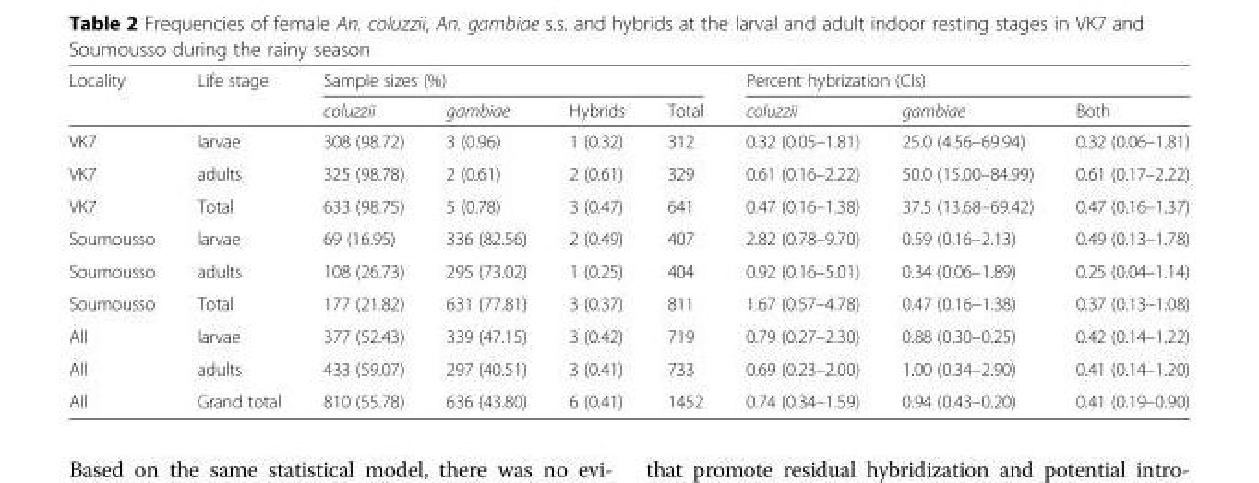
<table><thead><tr><td rowspan="2">Locality</td><td rowspan="2">Life stage</td><td colspan="4">Sample sizes (%)</td><td colspan="3">Percent hybrization (CIs)</td></tr><tr><td>coluzzii</td><td>gambiae</td><td>Hybrids</td><td>Total</td><td>coluzzii</td><td>gambiae</td><td>Both</td></tr></thead><tbody><tr><td>VK7</td><td>larvae</td><td>308 (98.72)</td><td>3 (0.96)</td><td>1 (0.32)</td><td>312</td><td>0.32 (0.05–1.81)</td><td>25.0 (4.56–69.94)</td><td>0.32 (0.06–1.81)</td></tr><tr><td>VK7</td><td>adults</td><td>325 (98.78)</td><td>2 (0.61)</td><td>2 (0.61)</td><td>329</td><td>0.61 (0.16–2.22)</td><td>50.0 (15.00–84.99)</td><td>0.61 (0.17–2.22)</td></tr><tr><td>VK7</td><td>Total</td><td>633 (98.75)</td><td>5 (0.78)</td><td>3 (0.47)</td><td>641</td><td>0.47 (0.16–1.38)</td><td>37.5 (13.68–69.42)</td><td>0.47 (0.16–1.37)</td></tr><tr><td>Soumousso</td><td>larvae</td><td>69 (16.95)</td><td>336 (82.56)</td><td>2 (0.49)</td><td>407</td><td>2.82 (0.78–9.70)</td><td>0.59 (0.16–2.13)</td><td>0.49 (0.13–1.78)</td></tr><tr><td>Soumousso</td><td>adults</td><td>108 (26.73)</td><td>295 (73.02)</td><td>1 (0.25)</td><td>404</td><td>0.92 (0.16–5.01)</td><td>0.34 (0.06–1.89)</td><td>0.25 (0.04–1.14)</td></tr><tr><td>Soumousso</td><td>Total</td><td>177 (21.82)</td><td>631 (77.81)</td><td>3 (0.37)</td><td>811</td><td>1.67 (0.57–4.78)</td><td>0.47 (0.16–1.38)</td><td>0.37 (0.13–1.08)</td></tr><tr><td>All</td><td>larvae</td><td>377 (52.43)</td><td>339 (47.15)</td><td>3 (0.42)</td><td>719</td><td>0.79 (0.27–2.30)</td><td>0.88 (0.30–0.25)</td><td>0.42 (0.14–1.22)</td></tr><tr><td>All</td><td>adults</td><td>433 (59.07)</td><td>297 (40.51)</td><td>3 (0.41)</td><td>733</td><td>0.69 (0.23–2.00)</td><td>1.00 (0.34–2.90)</td><td>0.41 (0.14–1.20)</td></tr><tr><td>All</td><td>Grand total</td><td>810 (55.78)</td><td>636 (43.80)</td><td>6 (0.41)</td><td>1452</td><td>0.74 (0.34–1.59)</td><td>0.94 (0.43–0.20)</td><td>0.41 (0.19–0.90)</td></tr></tbody></table>